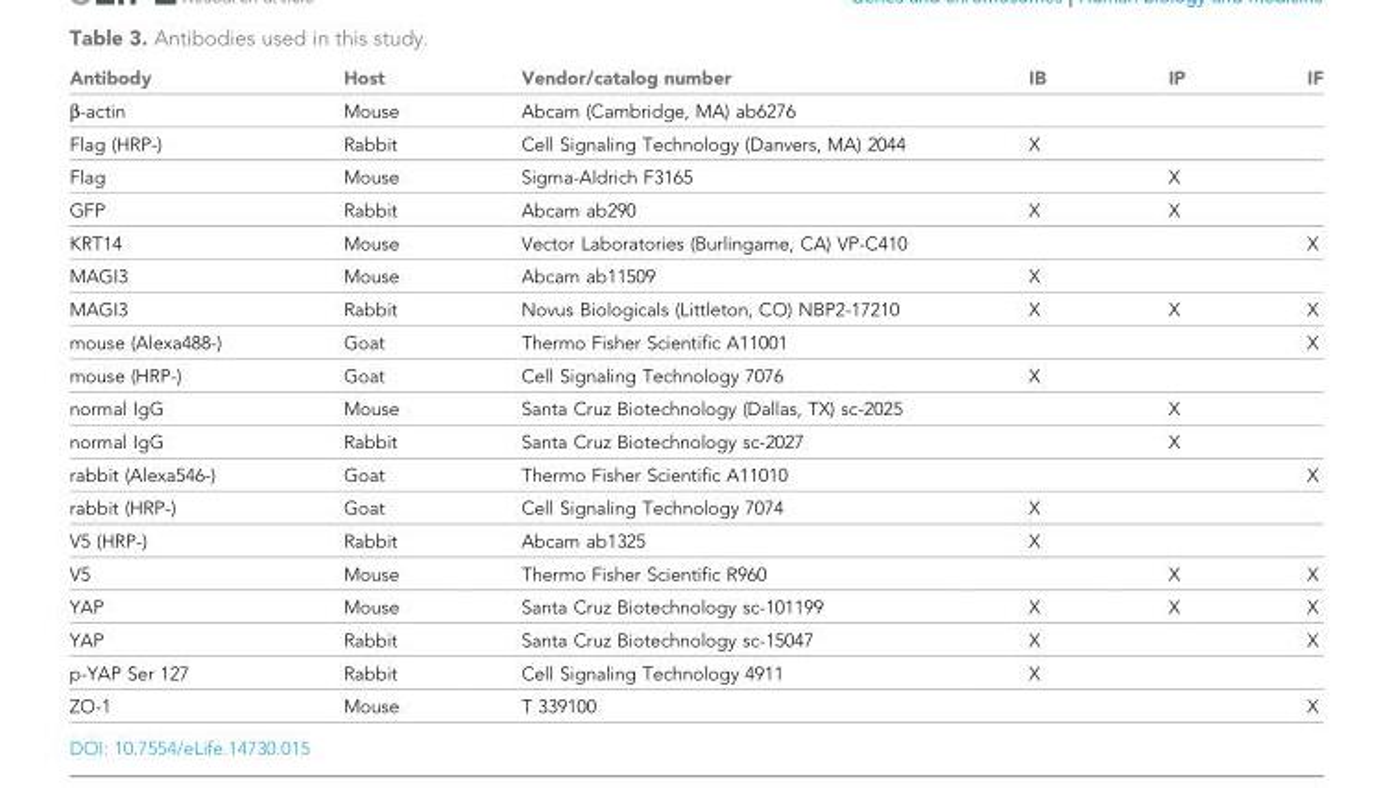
<table><thead><tr><td>Antibody</td><td>Host</td><td>Vendor/catalog number</td><td>IB</td><td>IP</td><td>IF</td></tr></thead><tbody><tr><td>β-actin</td><td>Mouse</td><td>Abcam (Cambridge, MA) ab6276</td><td></td><td></td><td></td></tr><tr><td>Flag (HRP-)</td><td>Rabbit</td><td>Cell Signaling Technology (Danvers, MA) 2044</td><td>X</td><td></td><td></td></tr><tr><td>Flag</td><td>Mouse</td><td>Sigma-Aldrich F3165</td><td></td><td>X</td><td></td></tr><tr><td>GFP</td><td>Rabbit</td><td>Abcam ab290</td><td>X</td><td>X</td><td></td></tr><tr><td>KRT14</td><td>Mouse</td><td>Vector Laboratories (Burlingame, CA) VP-C410</td><td></td><td></td><td>X</td></tr><tr><td>MAGI3</td><td>Mouse</td><td>Abcam ab11509</td><td>X</td><td></td><td></td></tr><tr><td>MAGI3</td><td>Rabbit</td><td>Novus Biologicals (Littleton, CO) NBP2-17210</td><td>X</td><td>X</td><td>X</td></tr><tr><td>mouse (Alexa488-)</td><td>Goat</td><td>Thermo Fisher Scientific A11001</td><td></td><td></td><td>X</td></tr><tr><td>mouse (HRP-)</td><td>Goat</td><td>Cell Signaling Technology 7076</td><td>X</td><td></td><td></td></tr><tr><td>normal IgG</td><td>Mouse</td><td>Santa Cruz Biotechnology (Dallas, TX) sc-2025</td><td></td><td>X</td><td></td></tr><tr><td>normal IgG</td><td>Rabbit</td><td>Santa Cruz Biotechnology sc-2027</td><td></td><td>X</td><td></td></tr><tr><td>rabbit (Alexa546-)</td><td>Goat</td><td>Thermo Fisher Scientific A11010</td><td></td><td></td><td>X</td></tr><tr><td>rabbit (HRP-)</td><td>Goat</td><td>Cell Signaling Technology 7074</td><td>X</td><td></td><td></td></tr><tr><td>V5 (HRP-)</td><td>Rabbit</td><td>Abcam ab1325</td><td>X</td><td></td><td></td></tr><tr><td>V5</td><td>Mouse</td><td>Thermo Fisher Scientific R960</td><td></td><td>X</td><td>X</td></tr><tr><td>YAP</td><td>Mouse</td><td>Santa Cruz Biotechnology sc-101199</td><td>X</td><td>X</td><td>X</td></tr><tr><td>YAP</td><td>Rabbit</td><td>Santa Cruz Biotechnology sc-15047</td><td>X</td><td></td><td>X</td></tr><tr><td>p-YAP Ser 127</td><td>Rabbit</td><td>Cell Signaling Technology 4911</td><td>X</td><td></td><td></td></tr><tr><td>ZO-1</td><td>Mouse</td><td>T 339100</td><td></td><td></td><td>X</td></tr></tbody></table>